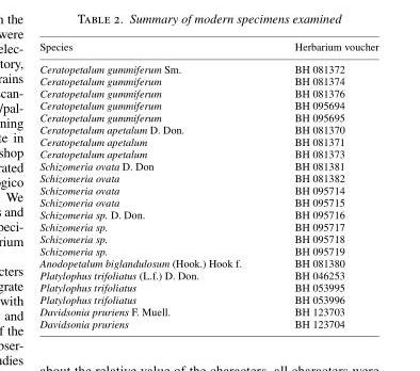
<table><thead><tr><td>Species</td><td>Herbarium voucher</td></tr></thead><tbody><tr><td>Ceratopetalum gummiferum Sm.</td><td>BH 081372</td></tr><tr><td>Ceratopetalum gummiferum</td><td>BH 081374</td></tr><tr><td>Ceratopetalum gummiferum</td><td>BH 081376</td></tr><tr><td>Ceratopetalum gummiferum</td><td>BH 095694</td></tr><tr><td>Ceratopetalum gummiferum</td><td>BH 095695</td></tr><tr><td>Ceratopetalum apetalum D. Don.</td><td>BH 081370</td></tr><tr><td>Ceratopetalum apetalum</td><td>BH 081371</td></tr><tr><td>Ceratopetalum apetalum</td><td>BH 081373</td></tr><tr><td>Schizomeria ovata D. Don</td><td>BH 081381</td></tr><tr><td>Schizomeria ovata</td><td>BH 081382</td></tr><tr><td>Schizomeria ovata</td><td>BH 095714</td></tr><tr><td>Schizomeria ovata</td><td>BH 095715</td></tr><tr><td>Schizomeria sp. D. Don.</td><td>BH 095716</td></tr><tr><td>Schizomeria sp.</td><td>BH 095717</td></tr><tr><td>Schizomeria sp.</td><td>BH 095718</td></tr><tr><td>Schizomeria sp.</td><td>BH 095719</td></tr><tr><td>Anodopetalum biglandulosum (Hook.) Hook f.</td><td>BH 081380</td></tr><tr><td>Platylophus trifoliatus (L.f.) D. Don.</td><td>BH 046253</td></tr><tr><td>Platylophus trifoliatus</td><td>BH 053995</td></tr><tr><td>Platylophus trifoliatus</td><td>BH 053996</td></tr><tr><td>Davidsonia pruriens F. Muell.</td><td>BH 123703</td></tr><tr><td>Davidsonia pruriens</td><td>BH 123704</td></tr></tbody></table>